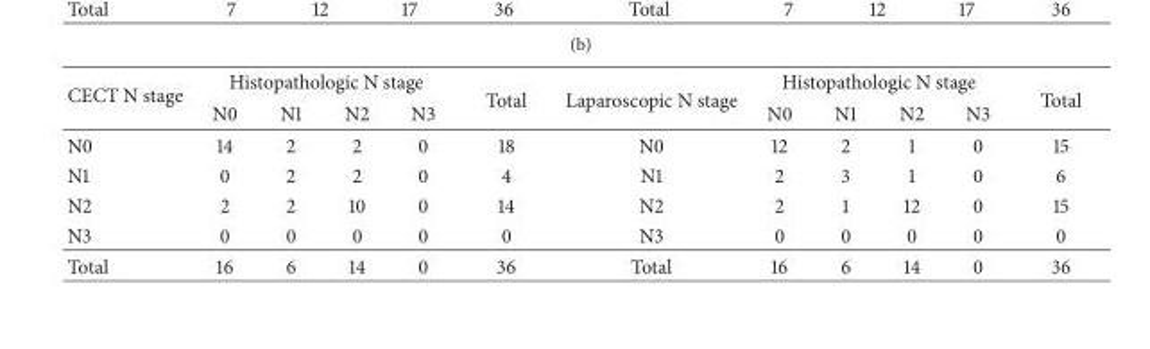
<table><thead><tr><td rowspan="2">CECT N stage</td><td colspan="4">Histopathologic N stage</td><td rowspan="2">Total</td><td rowspan="2">Laparoscopic N stage</td><td colspan="4">Histopathologic N stage</td><td rowspan="2">Total</td></tr><tr><td>N0</td><td>N1</td><td>N2</td><td>N3</td><td>N0</td><td>N1</td><td>N2</td><td>N3</td></tr></thead><tbody><tr><td>N0</td><td>14</td><td>2</td><td>2</td><td>0</td><td>18</td><td>N0</td><td>12</td><td>2</td><td>1</td><td>0</td><td>15</td></tr><tr><td>N1</td><td>0</td><td>2</td><td>2</td><td>0</td><td>4</td><td>N1</td><td>2</td><td>3</td><td>1</td><td>0</td><td>6</td></tr><tr><td>N2</td><td>2</td><td>2</td><td>10</td><td>0</td><td>14</td><td>N2</td><td>2</td><td>1</td><td>12</td><td>0</td><td>15</td></tr><tr><td>N3</td><td>0</td><td>0</td><td>0</td><td>0</td><td>0</td><td>N3</td><td>0</td><td>0</td><td>0</td><td>0</td><td>0</td></tr><tr><td>Total</td><td>16</td><td>6</td><td>14</td><td>0</td><td>36</td><td>Total</td><td>16</td><td>6</td><td>14</td><td>0</td><td>36</td></tr></tbody></table>